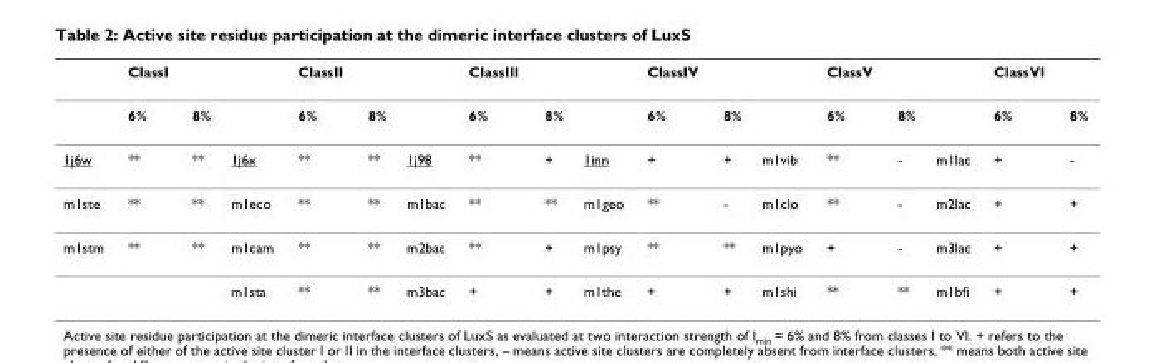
<table><thead><tr><td></td><td>ClassI</td><td></td><td></td><td>ClassII</td><td></td><td></td><td>ClassIII</td><td></td><td></td><td>ClassIV</td><td></td><td></td><td>ClassV</td><td></td><td></td><td>ClassVI</td><td></td></tr></thead><tbody><tr><td></td><td>6%</td><td>8%</td><td></td><td>6%</td><td>8%</td><td></td><td>6%</td><td>8%</td><td></td><td>6%</td><td>8%</td><td></td><td>6%</td><td>8%</td><td></td><td>6%</td><td>8%</td></tr><tr><td>1j6w</td><td>**</td><td>**</td><td>1j6x</td><td>**</td><td>**</td><td>1j98</td><td>**</td><td>+</td><td>1inn</td><td>+</td><td>+</td><td>m1vib</td><td>**</td><td>-</td><td>m1lac</td><td>+</td><td>-</td></tr><tr><td>m1ste</td><td>**</td><td>**</td><td>m1eco</td><td>**</td><td>**</td><td>m1bac</td><td>**</td><td>**</td><td>m1geo</td><td>**</td><td>-</td><td>m1clo</td><td>**</td><td>-</td><td>m2lac</td><td>+</td><td>+</td></tr><tr><td rowspan="2">m1stm</td><td>**</td><td>**</td><td>m1cam</td><td>**</td><td>**</td><td>m2bac</td><td>**</td><td>+</td><td>m1psy</td><td>**</td><td>**</td><td>m1pyo</td><td>+</td><td>-</td><td>m3lac</td><td>+</td><td>+</td></tr><tr><td></td><td></td><td>m1sta</td><td>**</td><td>**</td><td>m3bac</td><td>+</td><td>+</td><td>m1the</td><td>+</td><td>+</td><td>m1shi</td><td>**</td><td>**</td><td>m1bfi</td><td>+</td><td>+</td></tr></tbody></table>